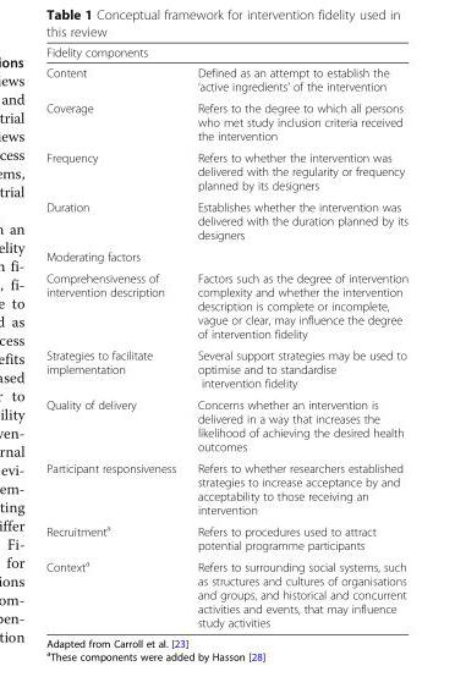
<table><thead><tr><td colspan="2">Fidelity components</td></tr><tr><td>Content</td><td>Defined as an attempt to establish the ‘active ingredients’ of the intervention</td></tr></thead><tbody><tr><td>Coverage</td><td>Refers to the degree to which all persons who met study inclusion criteria received the intervention</td></tr><tr><td>Frequency</td><td>Refers to whether the intervention was delivered with the regularity or frequency planned by its designers</td></tr><tr><td>Duration</td><td>Establishes whether the intervention was delivered with the duration planned by its designers</td></tr><tr><td colspan="2">Moderating factors</td></tr><tr><td>Comprehensiveness of intervention description</td><td>Factors such as the degree of intervention complexity and whether the intervention description is complete or incomplete, vague or clear, may influence the degree of intervention fidelity</td></tr><tr><td>Strategies to facilitate implementation</td><td>Several support strategies may be used to optimise and to standardise intervention fidelity</td></tr><tr><td>Quality of delivery</td><td>Concerns whether an intervention is delivered in a way that increases the likelihood of achieving the desired health outcomes</td></tr><tr><td>Participant responsiveness</td><td>Refers to whether researchers established strategies to increase acceptance by and acceptability to those receiving an intervention</td></tr><tr><td>Recruitment<sup>a</sup></td><td>Refers to procedures used to attract potential programme participants</td></tr><tr><td>Context<sup>a</sup></td><td>Refers to surrounding social systems, such as structures and cultures of organisations and groups, and historical and concurrent activities and events, that may influence study activities</td></tr></tbody></table>